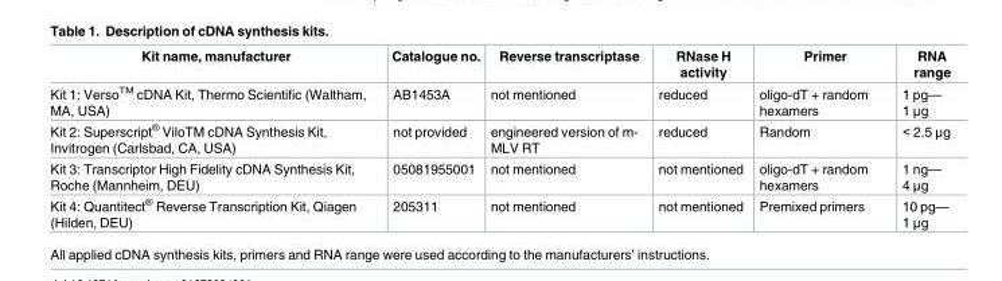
<table><thead><tr><td>Kit name, manufacturer</td><td>Catalogue no.</td><td>Reverse transcriptase</td><td>RNase H activity</td><td>Primer</td><td>RNA range</td></tr></thead><tbody><tr><td>Kit 1: Verso<sup>TM</sup> cDNA Kit, Thermo Scientific (Waltham, MA, USA)</td><td>AB1453A</td><td>not mentioned</td><td>reduced</td><td>oligo-dT + random hexamers</td><td>1 pg— 1 μg</td></tr><tr><td>Kit 2: Superscript<sup>®</sup> ViloTM cDNA Synthesis Kit, Invitrogen (Carlsbad, CA, USA)</td><td>not provided</td><td>engineered version of m- MLV RT</td><td>reduced</td><td>Random</td><td>&lt; 2.5 μg</td></tr><tr><td>Kit 3: Transcriptor High Fidelity cDNA Synthesis Kit, Roche (Mannheim, DEU)</td><td>05081955001</td><td>not mentioned</td><td>not mentioned</td><td>oligo-dT + random hexamers</td><td>1 ng— 4 μg</td></tr><tr><td>Kit 4: Quantitect<sup>®</sup> Reverse Transcription Kit, Qiagen (Hilden, DEU)</td><td>205311</td><td>not mentioned</td><td>not mentioned</td><td>Premixed primers</td><td>10 pg— 1 μg</td></tr></tbody></table>